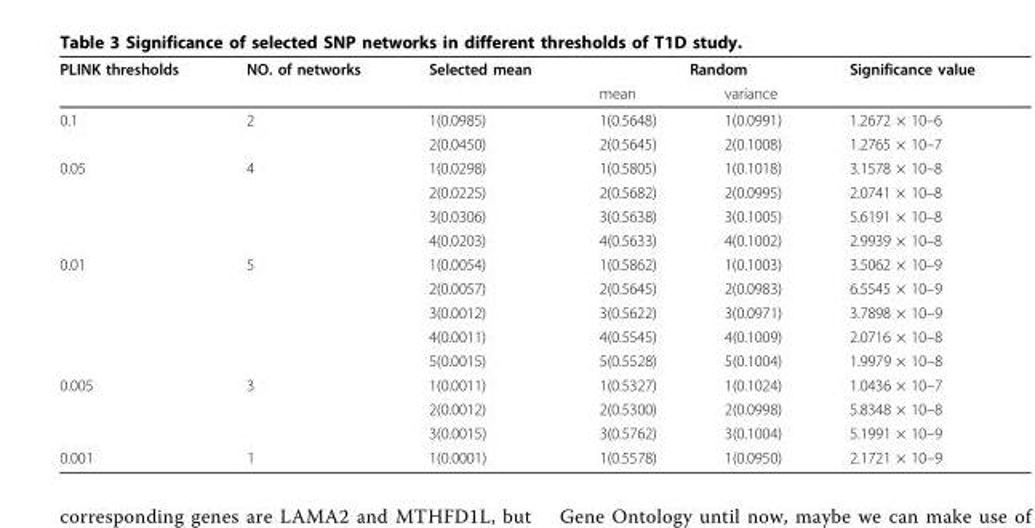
<table><thead><tr><td rowspan="2">PLINK thresholds</td><td rowspan="2">NO. of networks</td><td rowspan="2">Selected mean</td><td colspan="2">Random</td><td rowspan="2">Significance value</td></tr><tr><td>mean</td><td>variance</td></tr></thead><tbody><tr><td rowspan="2">0.1</td><td>2</td><td>1(0.0985)</td><td>1(0.5648)</td><td>1(0.0991)</td><td>1.2672 × 10–6</td></tr><tr><td></td><td>2(0.0450)</td><td>2(0.5645)</td><td>2(0.1008)</td><td>1.2765 × 10–7</td></tr><tr><td rowspan="4">0.05</td><td>4</td><td>1(0.0298)</td><td>1(0.5805)</td><td>1(0.1018)</td><td>3.1578 × 10–8</td></tr><tr><td></td><td>2(0.0225)</td><td>2(0.5682)</td><td>2(0.0995)</td><td>2.0741 × 10–8</td></tr><tr><td></td><td>3(0.0306)</td><td>3(0.5638)</td><td>3(0.1005)</td><td>5.6191 × 10–8</td></tr><tr><td></td><td>4(0.0203)</td><td>4(0.5633)</td><td>4(0.1002)</td><td>2.9939 × 10–8</td></tr><tr><td rowspan="5">0.01</td><td>5</td><td>1(0.0054)</td><td>1(0.5862)</td><td>1(0.1003)</td><td>3.5062 × 10–9</td></tr><tr><td></td><td>2(0.0057)</td><td>2(0.5645)</td><td>2(0.0983)</td><td>6.5545 × 10–9</td></tr><tr><td></td><td>3(0.0012)</td><td>3(0.5622)</td><td>3(0.0971)</td><td>3.7898 × 10–9</td></tr><tr><td></td><td>4(0.0011)</td><td>4(0.5545)</td><td>4(0.1009)</td><td>2.0716 × 10–8</td></tr><tr><td></td><td>5(0.0015)</td><td>5(0.5528)</td><td>5(0.1004)</td><td>1.9979 × 10–8</td></tr><tr><td rowspan="3">0.005</td><td>3</td><td>1(0.0011)</td><td>1(0.5327)</td><td>1(0.1024)</td><td>1.0436 × 10–7</td></tr><tr><td></td><td>2(0.0012)</td><td>2(0.5300)</td><td>2(0.0998)</td><td>5.8348 × 10–8</td></tr><tr><td></td><td>3(0.0015)</td><td>3(0.5762)</td><td>3(0.1004)</td><td>5.1991 × 10–9</td></tr><tr><td>0.001</td><td>1</td><td>1(0.0001)</td><td>1(0.5578)</td><td>1(0.0950)</td><td>2.1721 × 10–9</td></tr></tbody></table>